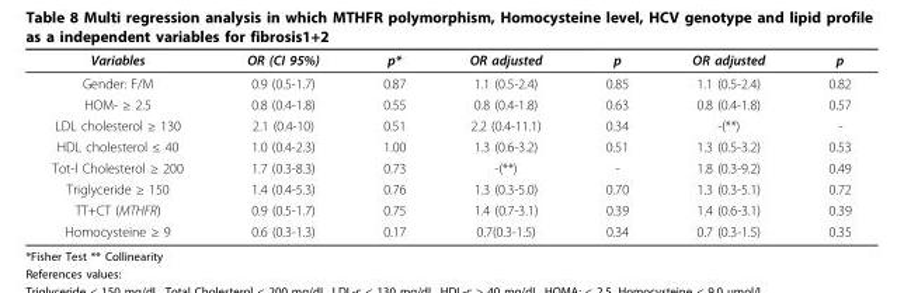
<table><thead><tr><td>Variables</td><td>OR (CI 95%)</td><td>p*</td><td>OR adjusted</td><td>p</td><td>OR adjusted</td><td>p</td></tr></thead><tbody><tr><td>Gender: F/M</td><td>0.9 (0.5-1.7)</td><td>0.87</td><td>1.1 (0.5-2.4)</td><td>0.85</td><td>1.1 (0.5-2.4)</td><td>0.82</td></tr><tr><td>HOM- ≥ 2.5</td><td>0.8 (0.4-1.8)</td><td>0.55</td><td>0.8 (0.4-1.8)</td><td>0.63</td><td>0.8 (0.4-1.8)</td><td>0.57</td></tr><tr><td>LDL cholesterol ≥ 130</td><td>2.1 (0.4-10)</td><td>0.51</td><td>2.2 (0.4-11.1)</td><td>0.34</td><td>-(**)</td><td>-</td></tr><tr><td>HDL cholesterol ≤ 40</td><td>1.0 (0.4-2.3)</td><td>1.00</td><td>1.3 (0.6-3.2)</td><td>0.51</td><td>1.3 (0.5-3.2)</td><td>0.53</td></tr><tr><td>Tot-l Cholesterol ≥ 200</td><td>1.7 (0.3-8.3)</td><td>0.73</td><td>-(**)</td><td>-</td><td>1.8 (0.3-9.2)</td><td>0.49</td></tr><tr><td>Triglyceride ≥ 150</td><td>1.4 (0.4-5.3)</td><td>0.76</td><td>1.3 (0.3-5.0)</td><td>0.70</td><td>1.3 (0.3-5.1)</td><td>0.72</td></tr><tr><td>TT+CT (MTHFR)</td><td>0.9 (0.5-1.7)</td><td>0.75</td><td>1.4 (0.7-3.1)</td><td>0.39</td><td>1.4 (0.6-3.1)</td><td>0.39</td></tr><tr><td>Homocysteine ≥ 9</td><td>0.6 (0.3-1.3)</td><td>0.17</td><td>0.7(0.3-1.5)</td><td>0.34</td><td>0.7 (0.3-1.5)</td><td>0.35</td></tr></tbody></table>